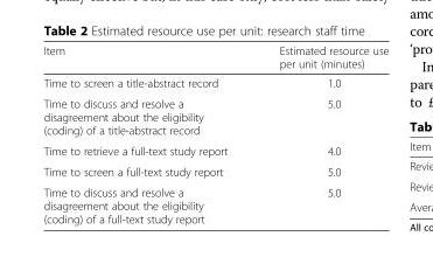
<table><thead><tr><td>Item</td><td>Estimated resource use per unit (minutes)</td></tr></thead><tbody><tr><td>Time to screen a title-abstract record</td><td>1.0</td></tr><tr><td>Time to discuss and resolve a disagreement about the eligibility (coding) of a title-abstract record</td><td>5.0</td></tr><tr><td>Time to retrieve a full-text study report</td><td>4.0</td></tr><tr><td>Time to screen a full-text study report</td><td>5.0</td></tr><tr><td>Time to discuss and resolve a disagreement about the eligibility (coding) of a full-text study report</td><td>5.0</td></tr></tbody></table>